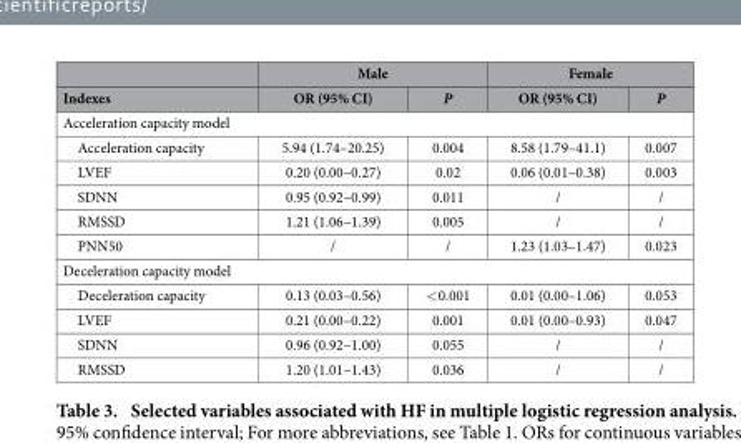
<table><thead><tr><td rowspan="2">Indexes</td><td colspan="2">Male</td><td colspan="2">Female</td></tr><tr><td>OR (95% CI)</td><td>P</td><td>OR (95% CI)</td><td>P</td></tr></thead><tbody><tr><td colspan="5">Acceleration capacity model</td></tr><tr><td>Acceleration capacity</td><td>5.94 (1.74–20.25)</td><td>0.004</td><td>8.58 (1.79–41.1)</td><td>0.007</td></tr><tr><td>LVEF</td><td>0.20 (0.00–0.27)</td><td>0.02</td><td>0.06 (0.01–0.38)</td><td>0.003</td></tr><tr><td>SDNN</td><td>0.95 (0.92–0.99)</td><td>0.011</td><td>/</td><td>/</td></tr><tr><td>RMSSD</td><td>1.21 (1.06–1.39)</td><td>0.005</td><td>/</td><td>/</td></tr><tr><td>PNN50</td><td>/</td><td>/</td><td>1.23 (1.03–1.47)</td><td>0.023</td></tr><tr><td colspan="5">Deceleration capacity model</td></tr><tr><td>Deceleration capacity</td><td>0.13 (0.03–0.56)</td><td>&lt; 0.001</td><td>0.01 (0.00–1.06)</td><td>0.053</td></tr><tr><td>LVEF</td><td>0.21 (0.00–0.22)</td><td>0.001</td><td>0.01 (0.00–0.93)</td><td>0.047</td></tr><tr><td>SDNN</td><td>0.96 (0.92–1.00)</td><td>0.055</td><td>/</td><td>/</td></tr><tr><td>RMSSD</td><td>1.20 (1.01–1.43)</td><td>0.036</td><td>/</td><td>/</td></tr></tbody></table>